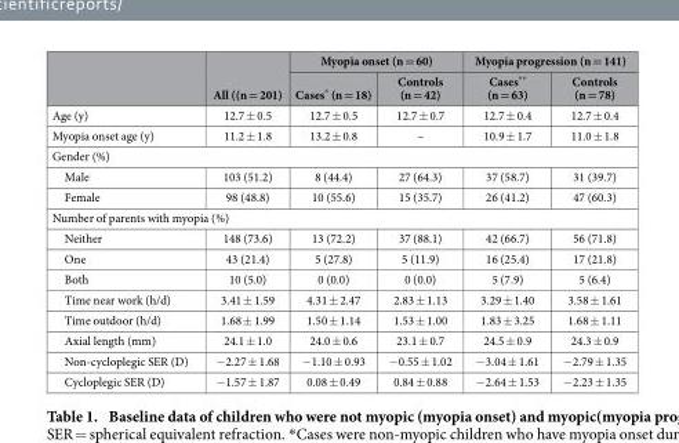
<table><thead><tr><td rowspan="2"></td><td rowspan="2">All ((n = 201)</td><td colspan="2">Myopia onset (n = 60)</td><td colspan="2">Myopia progression (n = 141)</td></tr><tr><td>Cases* (n = 18)</td><td>Controls (n = 42)</td><td>Cases** (n = 63)</td><td>Controls (n = 78)</td></tr></thead><tbody><tr><td>Age (y)</td><td>12.7 ± 0.5</td><td>12.7 ± 0.5</td><td>12.7 ± 0.7</td><td>12.7 ± 0.4</td><td>12.7 ± 0.4</td></tr><tr><td>Myopia onset age (y)</td><td>11.2 ± 1.8</td><td>13.2 ± 0.8</td><td>–</td><td>10.9 ± 1.7</td><td>11.0 ± 1.8</td></tr><tr><td colspan="6">Gender (%)</td></tr><tr><td>Male</td><td>103 (51.2)</td><td>8 (44.4)</td><td>27 (64.3)</td><td>37 (58.7)</td><td>31 (39.7)</td></tr><tr><td>Female</td><td>98 (48.8)</td><td>10 (55.6)</td><td>15 (35.7)</td><td>26 (41.2)</td><td>47 (60.3)</td></tr><tr><td colspan="6">Number of parents with myopia (%)</td></tr><tr><td>Neither</td><td>148 (73.6)</td><td>13 (72.2)</td><td>37 (88.1)</td><td>42 (66.7)</td><td>56 (71.8)</td></tr><tr><td>One</td><td>43 (21.4)</td><td>5 (27.8)</td><td>5 (11.9)</td><td>16 (25.4)</td><td>17 (21.8)</td></tr><tr><td>Both</td><td>10 (5.0)</td><td>0 (0.0)</td><td>0 (0.0)</td><td>5 (7.9)</td><td>5 (6.4)</td></tr><tr><td>Time near work (h/d)</td><td>3.41 ± 1.59</td><td>4.31 ± 2.47</td><td>2.83 ± 1.13</td><td>3.29 ± 1.40</td><td>3.58 ± 1.61</td></tr><tr><td>Time outdoor (h/d)</td><td>1.68 ± 1.99</td><td>1.50 ± 1.14</td><td>1.53 ± 1.00</td><td>1.83 ± 3.25</td><td>1.68 ± 1.11</td></tr><tr><td>Axial length (mm)</td><td>24.1 ± 1.0</td><td>24.0 ± 0.6</td><td>23.1 ± 0.7</td><td>24.5 ± 0.9</td><td>24.3 ± 0.9</td></tr><tr><td>Non-cycloplegic SER (D)</td><td>−2.27 ± 1.68</td><td>−1.10 ± 0.93</td><td>−0.55 ± 1.02</td><td>−3.04 ± 1.61</td><td>−2.79 ± 1.35</td></tr><tr><td>Cycloplegic SER (D)</td><td>−1.57 ± 1.87</td><td>0.08 ± 0.49</td><td>0.84 ± 0.88</td><td>−2.64 ± 1.53</td><td>−2.23 ± 1.35</td></tr></tbody></table>